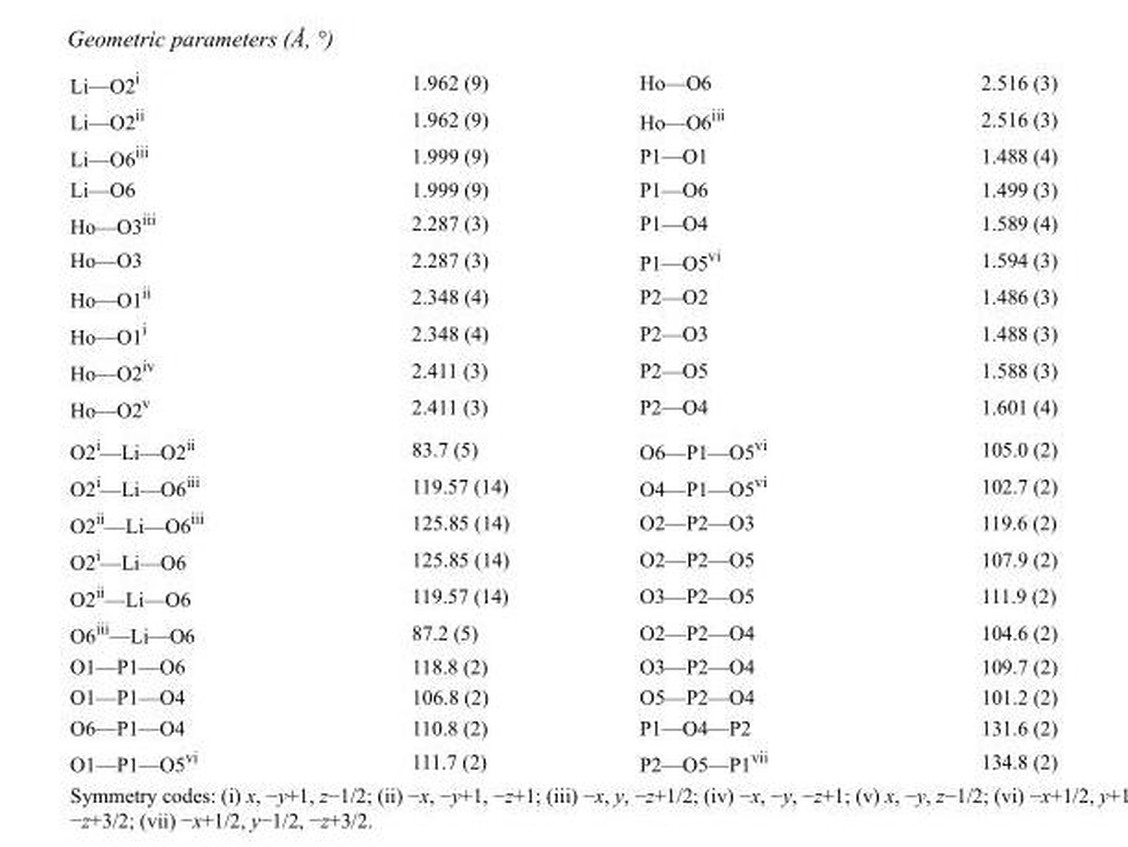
<table><tbody><tr><td>Li—O2<sup>i</sup></td><td>1.962 (9)</td><td>Ho—O6</td><td>2.516 (3)</td></tr><tr><td>Li—O2<sup>ii</sup></td><td>1.962 (9)</td><td>Ho—O6<sup>iii</sup></td><td>2.516 (3)</td></tr><tr><td>Li—O6<sup>iii</sup></td><td>1.999 (9)</td><td>P1—O1</td><td>1.488 (4)</td></tr><tr><td>Li—O6</td><td>1.999 (9)</td><td>P1—O6</td><td>1.499 (3)</td></tr><tr><td>Ho—O3<sup>iii</sup></td><td>2.287 (3)</td><td>P1—O4</td><td>1.589 (4)</td></tr><tr><td>Ho—O3</td><td>2.287 (3)</td><td>P1—O5<sup>vi</sup></td><td>1.594 (3)</td></tr><tr><td>Ho—O1<sup>ii</sup></td><td>2.348 (4)</td><td>P2—O2</td><td>1.486 (3)</td></tr><tr><td>Ho—O1<sup>i</sup></td><td>2.348 (4)</td><td>P2—O3</td><td>1.488 (3)</td></tr><tr><td>Ho—O2<sup>iv</sup></td><td>2.411 (3)</td><td>P2—O5</td><td>1.588 (3)</td></tr><tr><td>Ho—O2<sup>v</sup></td><td>2.411 (3)</td><td>P2—O4</td><td>1.601 (4)</td></tr><tr><td>O2<sup>i</sup>—Li—O2<sup>ii</sup></td><td>83.7 (5)</td><td>O6—P1—O5<sup>vi</sup></td><td>105.0 (2)</td></tr><tr><td>O2<sup>i</sup>—Li—O6<sup>iii</sup></td><td>119.57 (14)</td><td>O4—P1—O5<sup>vi</sup></td><td>102.7 (2)</td></tr><tr><td>O2<sup>ii</sup>—Li—O6<sup>iii</sup></td><td>125.85 (14)</td><td>O2—P2—O3</td><td>119.6 (2)</td></tr><tr><td>O2<sup>i</sup>—Li—O6</td><td>125.85 (14)</td><td>O2—P2—O5</td><td>107.9 (2)</td></tr><tr><td>O2<sup>ii</sup>—Li—O6</td><td>119.57 (14)</td><td>O3—P2—O5</td><td>111.9 (2)</td></tr><tr><td>O6<sup>iii</sup>—Li—O6</td><td>87.2 (5)</td><td>O2—P2—O4</td><td>104.6 (2)</td></tr><tr><td>O1—P1—O6</td><td>118.8 (2)</td><td>O3—P2—O4</td><td>109.7 (2)</td></tr><tr><td>O1—P1—O4</td><td>106.8 (2)</td><td>O5—P2—O4</td><td>101.2 (2)</td></tr><tr><td>O6—P1—O4</td><td>110.8 (2)</td><td>P1—O4—P2</td><td>131.6 (2)</td></tr><tr><td>O1—P1—O5<sup>vi</sup></td><td>111.7 (2)</td><td>P2—O5—P1<sup>vii</sup></td><td>134.8 (2)</td></tr></tbody></table>